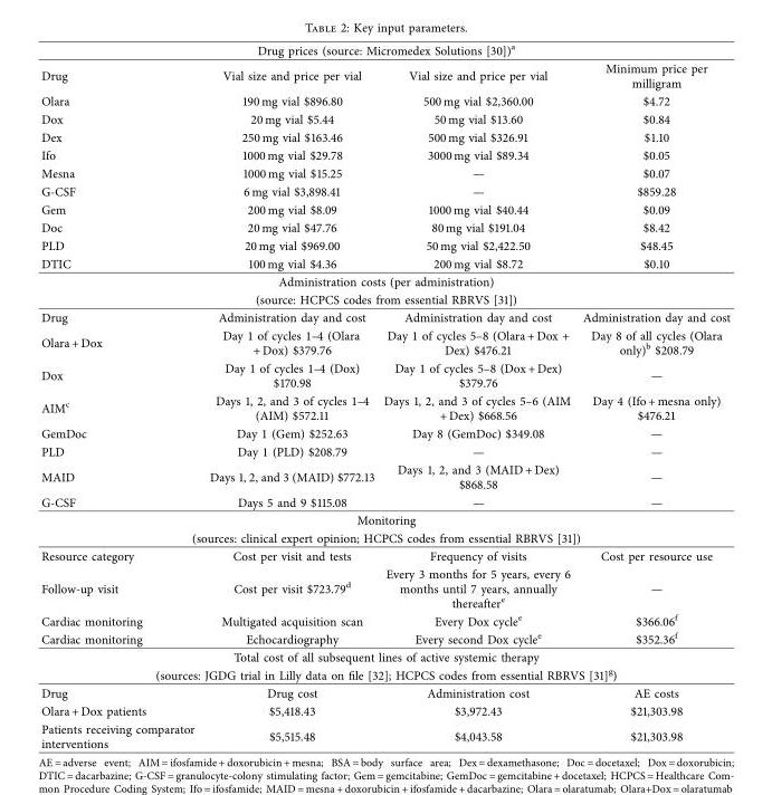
<table><thead><tr><td colspan="4">Drug prices (source: Micromedex Solutions [30])<sup>a</sup></td></tr><tr><td>Drug</td><td>Vial size and price per vial</td><td>Vial size and price per vial</td><td>Minimum price per milligram</td></tr></thead><tbody><tr><td>Olara</td><td>190 mg vial $896.80</td><td>500 mg vial $2,360.00</td><td>$4.72</td></tr><tr><td>Dox</td><td>20 mg vial $5.44</td><td>50 mg vial $13.60</td><td>$0.84</td></tr><tr><td>Dex</td><td>250 mg vial $163.46</td><td>500 mg vial $326.91</td><td>$1.10</td></tr><tr><td>Ifo</td><td>1000 mg vial $29.78</td><td>3000 mg vial $89.34</td><td>$0.05</td></tr><tr><td>Mesna</td><td>1000 mg vial $15.25</td><td>—</td><td>$0.07</td></tr><tr><td>G-CSF</td><td>6 mg vial $3,898.41</td><td>—</td><td>$859.28</td></tr><tr><td>Gem</td><td>200 mg vial $8.09</td><td>1000 mg vial $40.44</td><td>$0.09</td></tr><tr><td>Doc</td><td>20 mg vial $47.76</td><td>80 mg vial $191.04</td><td>$8.42</td></tr><tr><td>PLD</td><td>20 mg vial $969.00</td><td>50 mg vial $2,422.50</td><td>$48.45</td></tr><tr><td>DTIC</td><td>100 mg vial $4.36</td><td>200 mg vial $8.72</td><td>$0.10</td></tr><tr><td colspan="4">Administration costs (per administration)</td></tr><tr><td colspan="4">(source: HCPCS codes from essential RBRVS [31])</td></tr><tr><td>Drug</td><td>Administration day and cost</td><td>Administration day and cost</td><td>Administration day and cost</td></tr><tr><td>Olara + Dox</td><td>Day 1 of cycles 1–4 (Olara + Dox) $379.76</td><td>Day 1 of cycles 5–8 (Olara + Dox + Dex) $476.21</td><td>Day 8 of all cycles (Olara only)<sup>b</sup> $208.79</td></tr><tr><td>Dox</td><td>Day 1 of cycles 1–4 (Dox) $170.98</td><td>Day 1 of cycles 5–8 (Dox + Dex) $379.76</td><td>—</td></tr><tr><td>AIM<sup>c</sup></td><td>Days 1, 2, and 3 of cycles 1–4 (AIM) $572.11</td><td>Days 1, 2, and 3 of cycles 5–6 (AIM + Dex) $668.56</td><td>Day 4 (Ifo + mesna only) $476.21</td></tr><tr><td>GemDoc</td><td>Day 1 (Gem) $252.63</td><td>Day 8 (GemDoc) $349.08</td><td>—</td></tr><tr><td>PLD</td><td>Day 1 (PLD) $208.79</td><td>—</td><td>—</td></tr><tr><td>MAID</td><td>Days 1, 2, and 3 (MAID) $772.13</td><td>Days 1, 2, and 3 (MAID + Dex) $868.58</td><td>—</td></tr><tr><td>G-CSF</td><td>Days 5 and 9 $115.08</td><td>—</td><td>—</td></tr><tr><td colspan="4">Monitoring</td></tr><tr><td colspan="4">(sources: clinical expert opinion; HCPCS codes from essential RBRVS [31])</td></tr><tr><td>Resource category</td><td>Cost per visit and tests</td><td>Frequency of visits</td><td>Cost per resource use</td></tr><tr><td>Follow-up visit</td><td>Cost per visit $723.79<sup>d</sup></td><td>Every 3 months for 5 years, every 6 months until 7 years, annually thereafter<sup>e</sup></td><td>—</td></tr><tr><td>Cardiac monitoring</td><td>Multigated acquisition scan</td><td>Every Dox cycle<sup>e</sup></td><td>$366.06<sup>f</sup></td></tr><tr><td>Cardiac monitoring</td><td>Echocardiography</td><td>Every second Dox cycle<sup>e</sup></td><td>$352.36<sup>f</sup></td></tr><tr><td colspan="4">Total cost of all subsequent lines of active systemic therapy</td></tr><tr><td colspan="4">(sources: JGDG trial in Lilly data on file [32]; HCPCS codes from essential RBRVS [31]<sup>g</sup>)</td></tr><tr><td>Drug</td><td>Drug cost</td><td>Administration cost</td><td>AE costs</td></tr><tr><td>Olara + Dox patients</td><td>$5,418.43</td><td>$3,972.43</td><td>$21,303.98</td></tr><tr><td>Patients receiving comparator interventions</td><td>$5,515.48</td><td>$4,043.58</td><td>$21,303.98</td></tr></tbody></table>